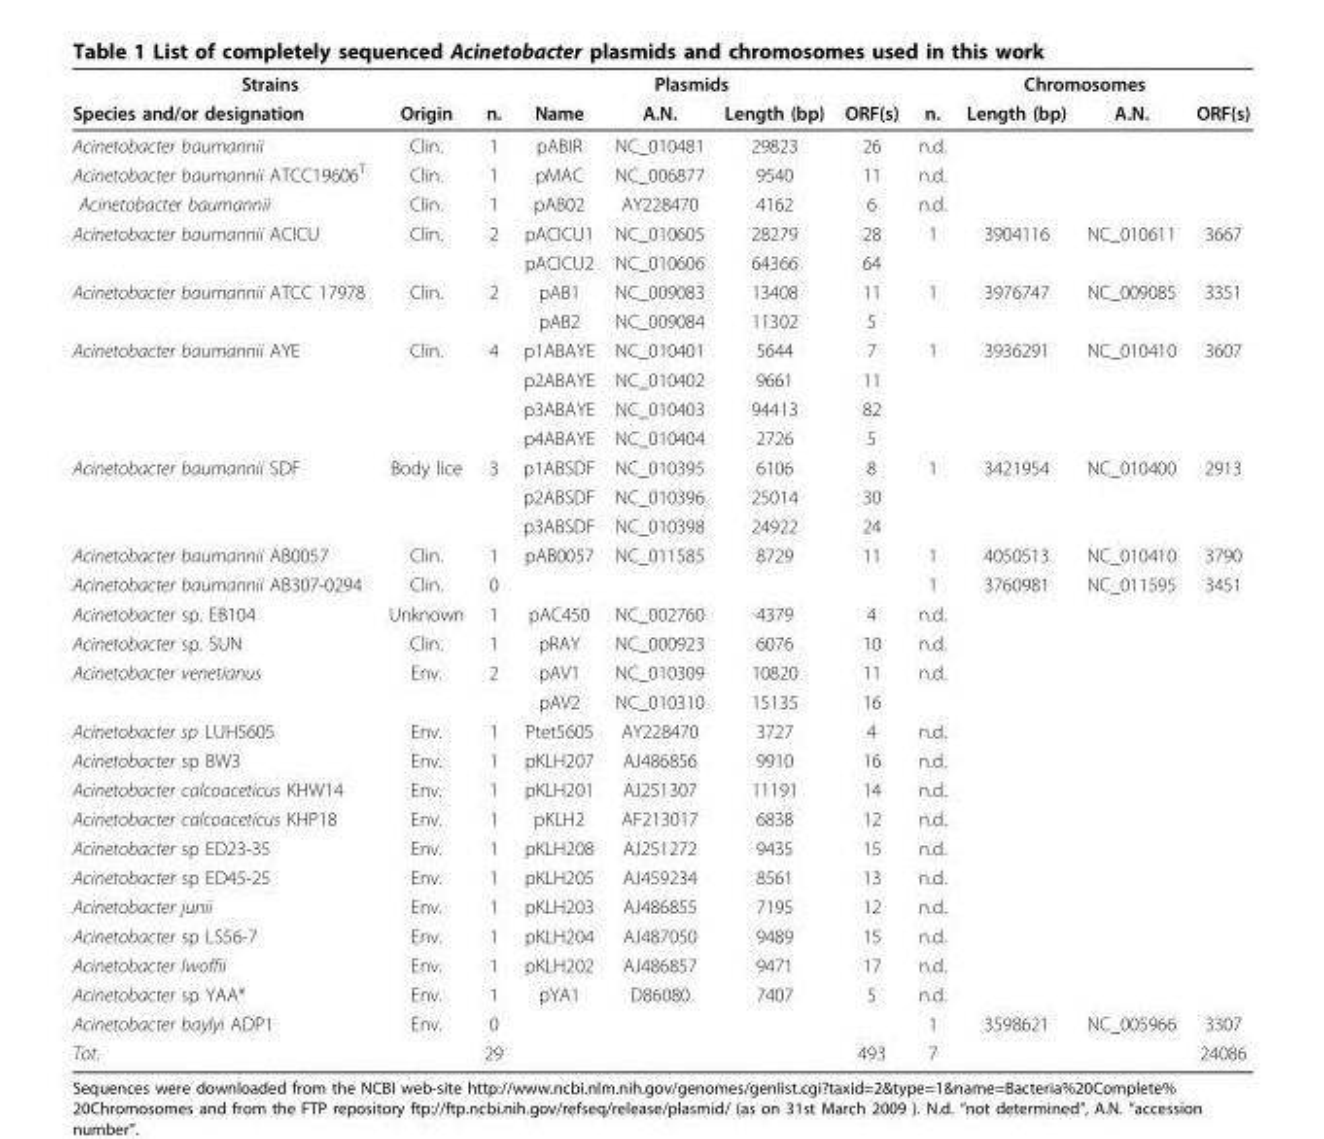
<table><thead><tr><td colspan="2">Strains</td><td colspan="5">Plasmids</td><td colspan="4">Chromosomes</td></tr><tr><td>Species and/or designation</td><td>Origin</td><td>n.</td><td>Name</td><td>A.N.</td><td>Length (bp)</td><td>ORF(s)</td><td>n.</td><td>Length (bp)</td><td>A.N.</td><td>ORF(s)</td></tr></thead><tbody><tr><td>Acinetobacter baumannii</td><td>Clin.</td><td>1</td><td>pABIR</td><td>NC_010481</td><td>29823</td><td>26</td><td>n.d.</td><td></td><td></td><td></td></tr><tr><td>Acinetobacter baumannii ATCC19606<sup>T</sup></td><td>Clin.</td><td>1</td><td>pMAC</td><td>NC_006877</td><td>9540</td><td>11</td><td>n.d.</td><td></td><td></td><td></td></tr><tr><td>Acinetobacter baumannii</td><td>Clin.</td><td>1</td><td>pAB02</td><td>AY228470</td><td>4162</td><td>6</td><td>n.d.</td><td></td><td></td><td></td></tr><tr><td rowspan="2">Acinetobacter baumannii ACICU</td><td>Clin.</td><td>2</td><td>pACICU1</td><td>NC_010605</td><td>28279</td><td>28</td><td>1</td><td>3904116</td><td>NC_010611</td><td>3667</td></tr><tr><td></td><td></td><td>pACICU2</td><td>NC_010606</td><td>64366</td><td>64</td><td></td><td></td><td></td><td></td></tr><tr><td rowspan="2">Acinetobacter baumannii ATCC 17978</td><td>Clin.</td><td>2</td><td>pAB1</td><td>NC_009083</td><td>13408</td><td>11</td><td>1</td><td>3976747</td><td>NC_009085</td><td>3351</td></tr><tr><td></td><td></td><td>pAB2</td><td>NC_009084</td><td>11302</td><td>5</td><td></td><td></td><td></td><td></td></tr><tr><td rowspan="4">Acinetobacter baumannii AYE</td><td>Clin.</td><td>4</td><td>p1ABAYE</td><td>NC_010401</td><td>5644</td><td>7</td><td>1</td><td>3936291</td><td>NC_010410</td><td>3607</td></tr><tr><td></td><td></td><td>p2ABAYE</td><td>NC_010402</td><td>9661</td><td>11</td><td></td><td></td><td></td><td></td></tr><tr><td></td><td></td><td>p3ABAYE</td><td>NC_010403</td><td>94413</td><td>82</td><td></td><td></td><td></td><td></td></tr><tr><td></td><td></td><td>p4ABAYE</td><td>NC_010404</td><td>2726</td><td>5</td><td></td><td></td><td></td><td></td></tr><tr><td rowspan="3">Acinetobacter baumannii SDF</td><td>Body lice</td><td>3</td><td>p1ABSDF</td><td>NC_010395</td><td>6106</td><td>8</td><td>1</td><td>3421954</td><td>NC_010400</td><td>2913</td></tr><tr><td></td><td></td><td>p2ABSDF</td><td>NC_010396</td><td>25014</td><td>30</td><td></td><td></td><td></td><td></td></tr><tr><td></td><td></td><td>p3ABSDF</td><td>NC_010398</td><td>24922</td><td>24</td><td></td><td></td><td></td><td></td></tr><tr><td>Acinetobacter baumannii AB0057</td><td>Clin.</td><td>1</td><td>pAB0057</td><td>NC_011585</td><td>8729</td><td>11</td><td>1</td><td>4050513</td><td>NC_010410</td><td>3790</td></tr><tr><td>Acinetobacter baumannii AB307-0294</td><td>Clin.</td><td>0</td><td></td><td></td><td></td><td></td><td>1</td><td>3760981</td><td>NC_011595</td><td>3451</td></tr><tr><td>Acinetobacter sp. EB104</td><td>Unknown</td><td>1</td><td>pAC450</td><td>NC_002760</td><td>4379</td><td>4</td><td>n.d.</td><td></td><td></td><td></td></tr><tr><td>Acinetobacter sp. SUN</td><td>Clin.</td><td>1</td><td>pRAY</td><td>NC_000923</td><td>6076</td><td>10</td><td>n.d.</td><td></td><td></td><td></td></tr><tr><td rowspan="2">Acinetobacter venetianus</td><td>Env.</td><td>2</td><td>pAV1</td><td>NC_010309</td><td>10820</td><td>11</td><td>n.d.</td><td></td><td></td><td></td></tr><tr><td></td><td></td><td>pAV2</td><td>NC_010310</td><td>15135</td><td>16</td><td></td><td></td><td></td><td></td></tr><tr><td>Acinetobacter sp LUH5605</td><td>Env.</td><td>1</td><td>Ptet5605</td><td>AY228470</td><td>3727</td><td>4</td><td>n.d.</td><td></td><td></td><td></td></tr><tr><td>Acinetobacter sp BW3</td><td>Env.</td><td>1</td><td>pKLH207</td><td>AJ486856</td><td>9910</td><td>16</td><td>n.d.</td><td></td><td></td><td></td></tr><tr><td>Acinetobacter calcoaceticus KHW14</td><td>Env.</td><td>1</td><td>pKLH201</td><td>AJ251307</td><td>11191</td><td>14</td><td>n.d.</td><td></td><td></td><td></td></tr><tr><td>Acinetobacter calcoaceticus KHP18</td><td>Env.</td><td>1</td><td>pKLH2</td><td>AF213017</td><td>6838</td><td>12</td><td>n.d.</td><td></td><td></td><td></td></tr><tr><td>Acinetobacter sp ED23-35</td><td>Env.</td><td>1</td><td>pKLH208</td><td>AJ251272</td><td>9435</td><td>15</td><td>n.d.</td><td></td><td></td><td></td></tr><tr><td>Acinetobacter sp ED45-25</td><td>Env.</td><td>1</td><td>pKLH205</td><td>AJ459234</td><td>8561</td><td>13</td><td>n.d.</td><td></td><td></td><td></td></tr><tr><td>Acinetobacter junii</td><td>Env.</td><td>1</td><td>pKLH203</td><td>AJ486855</td><td>7195</td><td>12</td><td>n.d.</td><td></td><td></td><td></td></tr><tr><td>Acinetobacter sp LS56-7</td><td>Env.</td><td>1</td><td>pKLH204</td><td>AJ487050</td><td>9489</td><td>15</td><td>n.d.</td><td></td><td></td><td></td></tr><tr><td>Acinetobacter lwoffii</td><td>Env.</td><td>1</td><td>pKLH202</td><td>AJ486857</td><td>9471</td><td>17</td><td>n.d.</td><td></td><td></td><td></td></tr><tr><td>Acinetobacter sp YAA*</td><td>Env.</td><td>1</td><td>pYA1</td><td>D86080</td><td>7407</td><td>5</td><td>n.d.</td><td></td><td></td><td></td></tr><tr><td>Acinetobacter baylyi ADP1</td><td>Env.</td><td>0</td><td></td><td></td><td></td><td></td><td>1</td><td>3598621</td><td>NC_005966</td><td>3307</td></tr><tr><td>Tot.</td><td></td><td>29</td><td></td><td></td><td></td><td>493</td><td>7</td><td></td><td></td><td>24086</td></tr></tbody></table>